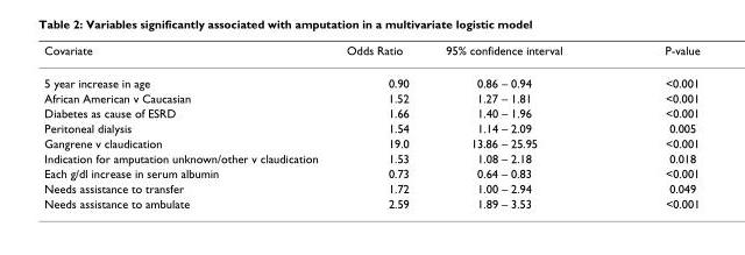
<table><thead><tr><td>Covariate</td><td>Odds Ratio</td><td>95% confidence interval</td><td>P-value</td></tr></thead><tbody><tr><td>5 year increase in age</td><td>0.90</td><td>0.86 – 0.94</td><td>&lt;0.001</td></tr><tr><td>African American v Caucasian</td><td>1.52</td><td>1.27 – 1.81</td><td>&lt;0.001</td></tr><tr><td>Diabetes as cause of ESRD</td><td>1.66</td><td>1.40 – 1.96</td><td>&lt;0.001</td></tr><tr><td>Peritoneal dialysis</td><td>1.54</td><td>1.14 – 2.09</td><td>0.005</td></tr><tr><td>Gangrene v claudication</td><td>19.0</td><td>13.86 – 25.95</td><td>&lt;0.001</td></tr><tr><td>Indication for amputation unknown/other v claudication</td><td>1.53</td><td>1.08 – 2.18</td><td>0.018</td></tr><tr><td>Each g/dl increase in serum albumin</td><td>0.73</td><td>0.64 – 0.83</td><td>&lt;0.001</td></tr><tr><td>Needs assistance to transfer</td><td>1.72</td><td>1.00 – 2.94</td><td>0.049</td></tr><tr><td>Needs assistance to ambulate</td><td>2.59</td><td>1.89 – 3.53</td><td>&lt;0.001</td></tr></tbody></table>